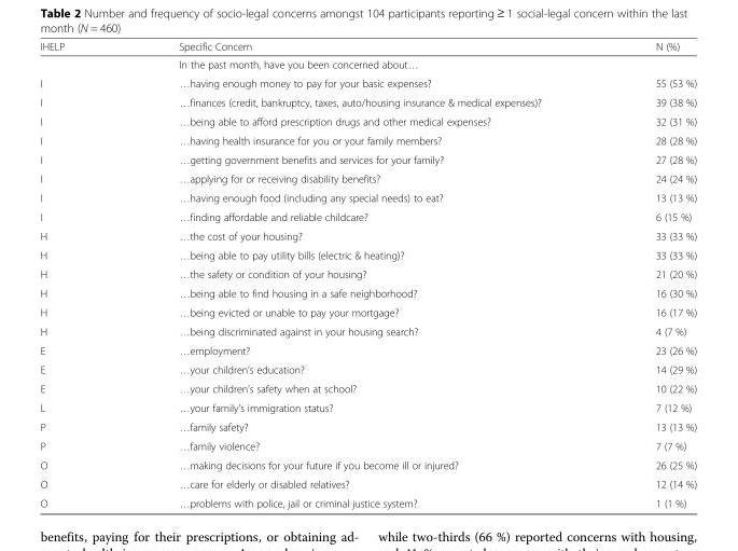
<table><thead><tr><td>IHELP</td><td>Specific Concern</td><td>N (%)</td></tr></thead><tbody><tr><td></td><td>In the past month, have you been concerned about…</td><td></td></tr><tr><td>I</td><td>…having enough money to pay for your basic expenses?</td><td>55 (53 %)</td></tr><tr><td>I</td><td>…finances (credit, bankruptcy, taxes, auto/housing insurance &amp; medical expenses)?</td><td>39 (38 %)</td></tr><tr><td>I</td><td>…being able to afford prescription drugs and other medical expenses?</td><td>32 (31 %)</td></tr><tr><td>I</td><td>…having health insurance for you or your family members?</td><td>28 (28 %)</td></tr><tr><td>I</td><td>…getting government benefits and services for your family?</td><td>27 (28 %)</td></tr><tr><td>I</td><td>…applying for or receiving disability benefits?</td><td>24 (24 %)</td></tr><tr><td>I</td><td>…having enough food (including any special needs) to eat?</td><td>13 (13 %)</td></tr><tr><td>I</td><td>…finding affordable and reliable childcare?</td><td>6 (15 %)</td></tr><tr><td>H</td><td>…the cost of your housing?</td><td>33 (33 %)</td></tr><tr><td>H</td><td>…being able to pay utility bills (electric &amp; heating)?</td><td>33 (33 %)</td></tr><tr><td>H</td><td>…the safety or condition of your housing?</td><td>21 (20 %)</td></tr><tr><td>H</td><td>…being able to find housing in a safe neighborhood?</td><td>16 (30 %)</td></tr><tr><td>H</td><td>…being evicted or unable to pay your mortgage?</td><td>16 (17 %)</td></tr><tr><td>H</td><td>…being discriminated against in your housing search?</td><td>4 (7 %)</td></tr><tr><td>E</td><td>…employment?</td><td>23 (26 %)</td></tr><tr><td>E</td><td>…your children’s education?</td><td>14 (29 %)</td></tr><tr><td>E</td><td>…your children’s safety when at school?</td><td>10 (22 %)</td></tr><tr><td>L</td><td>…your family’s immigration status?</td><td>7 (12 %)</td></tr><tr><td>P</td><td>…family safety?</td><td>13 (13 %)</td></tr><tr><td>P</td><td>…family violence?</td><td>7 (7 %)</td></tr><tr><td>O</td><td>…making decisions for your future if you become ill or injured?</td><td>26 (25 %)</td></tr><tr><td>O</td><td>…care for elderly or disabled relatives?</td><td>12 (14 %)</td></tr><tr><td>O</td><td>…problems with police, jail or criminal justice system?</td><td>1 (1 %)</td></tr></tbody></table>